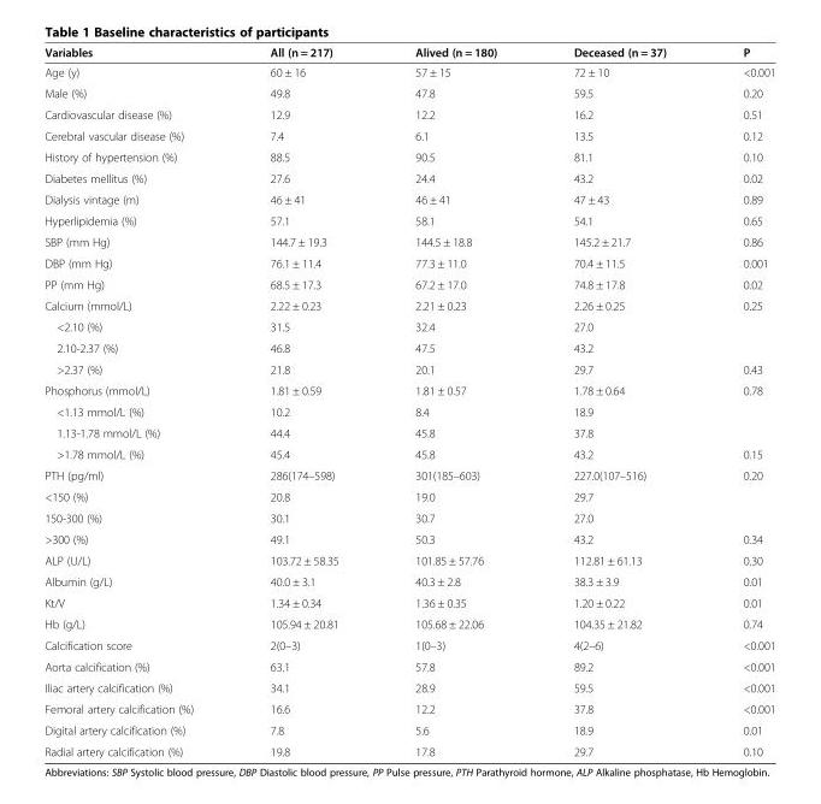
<table><thead><tr><td>Variables</td><td>All (n = 217)</td><td>Alived (n = 180)</td><td>Deceased (n = 37)</td><td>P</td></tr></thead><tbody><tr><td>Age (y)</td><td>60 ± 16</td><td>57 ± 15</td><td>72 ± 10</td><td>&lt;0.001</td></tr><tr><td>Male (%)</td><td>49.8</td><td>47.8</td><td>59.5</td><td>0.20</td></tr><tr><td>Cardiovascular disease (%)</td><td>12.9</td><td>12.2</td><td>16.2</td><td>0.51</td></tr><tr><td>Cerebral vascular disease (%)</td><td>7.4</td><td>6.1</td><td>13.5</td><td>0.12</td></tr><tr><td>History of hypertension (%)</td><td>88.5</td><td>90.5</td><td>81.1</td><td>0.10</td></tr><tr><td>Diabetes mellitus (%)</td><td>27.6</td><td>24.4</td><td>43.2</td><td>0.02</td></tr><tr><td>Dialysis vintage (m)</td><td>46 ± 41</td><td>46 ± 41</td><td>47 ± 43</td><td>0.89</td></tr><tr><td>Hyperlipidemia (%)</td><td>57.1</td><td>58.1</td><td>54.1</td><td>0.65</td></tr><tr><td>SBP (mm Hg)</td><td>144.7 ± 19.3</td><td>144.5 ± 18.8</td><td>145.2 ± 21.7</td><td>0.86</td></tr><tr><td>DBP (mm Hg)</td><td>76.1 ± 11.4</td><td>77.3 ± 11.0</td><td>70.4 ± 11.5</td><td>0.001</td></tr><tr><td>PP (mm Hg)</td><td>68.5 ± 17.3</td><td>67.2 ± 17.0</td><td>74.8 ± 17.8</td><td>0.02</td></tr><tr><td>Calcium (mmol/L)</td><td>2.22 ± 0.23</td><td>2.21 ± 0.23</td><td>2.26 ± 0.25</td><td>0.25</td></tr><tr><td>&lt;2.10 (%)</td><td>31.5</td><td>32.4</td><td>27.0</td><td></td></tr><tr><td>2.10-2.37 (%)</td><td>46.8</td><td>47.5</td><td>43.2</td><td></td></tr><tr><td>&gt;2.37 (%)</td><td>21.8</td><td>20.1</td><td>29.7</td><td>0.43</td></tr><tr><td>Phosphorus (mmol/L)</td><td>1.81 ± 0.59</td><td>1.81 ± 0.57</td><td>1.78 ± 0.64</td><td>0.78</td></tr><tr><td>&lt;1.13 mmol/L (%)</td><td>10.2</td><td>8.4</td><td>18.9</td><td></td></tr><tr><td>1.13-1.78 mmol/L (%)</td><td>44.4</td><td>45.8</td><td>37.8</td><td></td></tr><tr><td>&gt;1.78 mmol/L (%)</td><td>45.4</td><td>45.8</td><td>43.2</td><td>0.15</td></tr><tr><td>PTH (pg/ml)</td><td>286(174–598)</td><td>301(185–603)</td><td>227.0(107–516)</td><td>0.20</td></tr><tr><td>&lt;150 (%)</td><td>20.8</td><td>19.0</td><td>29.7</td><td></td></tr><tr><td>150-300 (%)</td><td>30.1</td><td>30.7</td><td>27.0</td><td></td></tr><tr><td>&gt;300 (%)</td><td>49.1</td><td>50.3</td><td>43.2</td><td>0.34</td></tr><tr><td>ALP (U/L)</td><td>103.72 ± 58.35</td><td>101.85 ± 57.76</td><td>112.81 ± 61.13</td><td>0.30</td></tr><tr><td>Albumin (g/L)</td><td>40.0 ± 3.1</td><td>40.3 ± 2.8</td><td>38.3 ± 3.9</td><td>0.01</td></tr><tr><td>Kt/V</td><td>1.34 ± 0.34</td><td>1.36 ± 0.35</td><td>1.20 ± 0.22</td><td>0.01</td></tr><tr><td>Hb (g/L)</td><td>105.94 ± 20.81</td><td>105.68 ± 22.06</td><td>104.35 ± 21.82</td><td>0.74</td></tr><tr><td>Calcification score</td><td>2(0–3)</td><td>1(0–3)</td><td>4(2–6)</td><td>&lt;0.001</td></tr><tr><td>Aorta calcification (%)</td><td>63.1</td><td>57.8</td><td>89.2</td><td>&lt;0.001</td></tr><tr><td>Iliac artery calcification (%)</td><td>34.1</td><td>28.9</td><td>59.5</td><td>&lt;0.001</td></tr><tr><td>Femoral artery calcification (%)</td><td>16.6</td><td>12.2</td><td>37.8</td><td>&lt;0.001</td></tr><tr><td>Digital artery calcification (%)</td><td>7.8</td><td>5.6</td><td>18.9</td><td>0.01</td></tr><tr><td>Radial artery calcification (%)</td><td>19.8</td><td>17.8</td><td>29.7</td><td>0.10</td></tr></tbody></table>